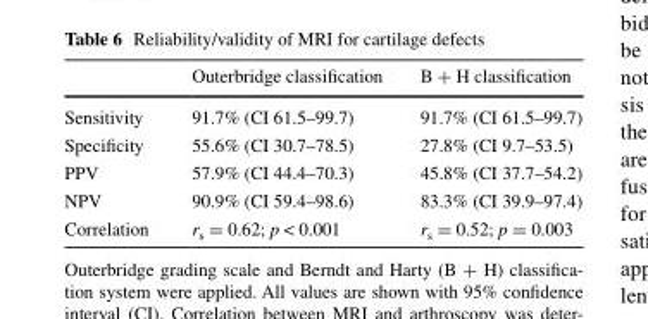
<table><thead><tr><td></td><td>Outerbridge classification</td><td>B + H classification</td></tr></thead><tbody><tr><td>Sensitivity</td><td>91.7% (CI 61.5–99.7)</td><td>91.7% (CI 61.5–99.7)</td></tr><tr><td>Specificity</td><td>55.6% (CI 30.7–78.5)</td><td>27.8% (CI 9.7–53.5)</td></tr><tr><td>PPV</td><td>57.9% (CI 44.4–70.3)</td><td>45.8% (CI 37.7–54.2)</td></tr><tr><td>NPV</td><td>90.9% (CI 59.4–98.6)</td><td>83.3% (CI 39.9–97.4)</td></tr><tr><td>Correlation</td><td>r<sub>s</sub> = 0.62; p &lt; 0.001</td><td>r<sub>s</sub> = 0.52; p = 0.003</td></tr></tbody></table>